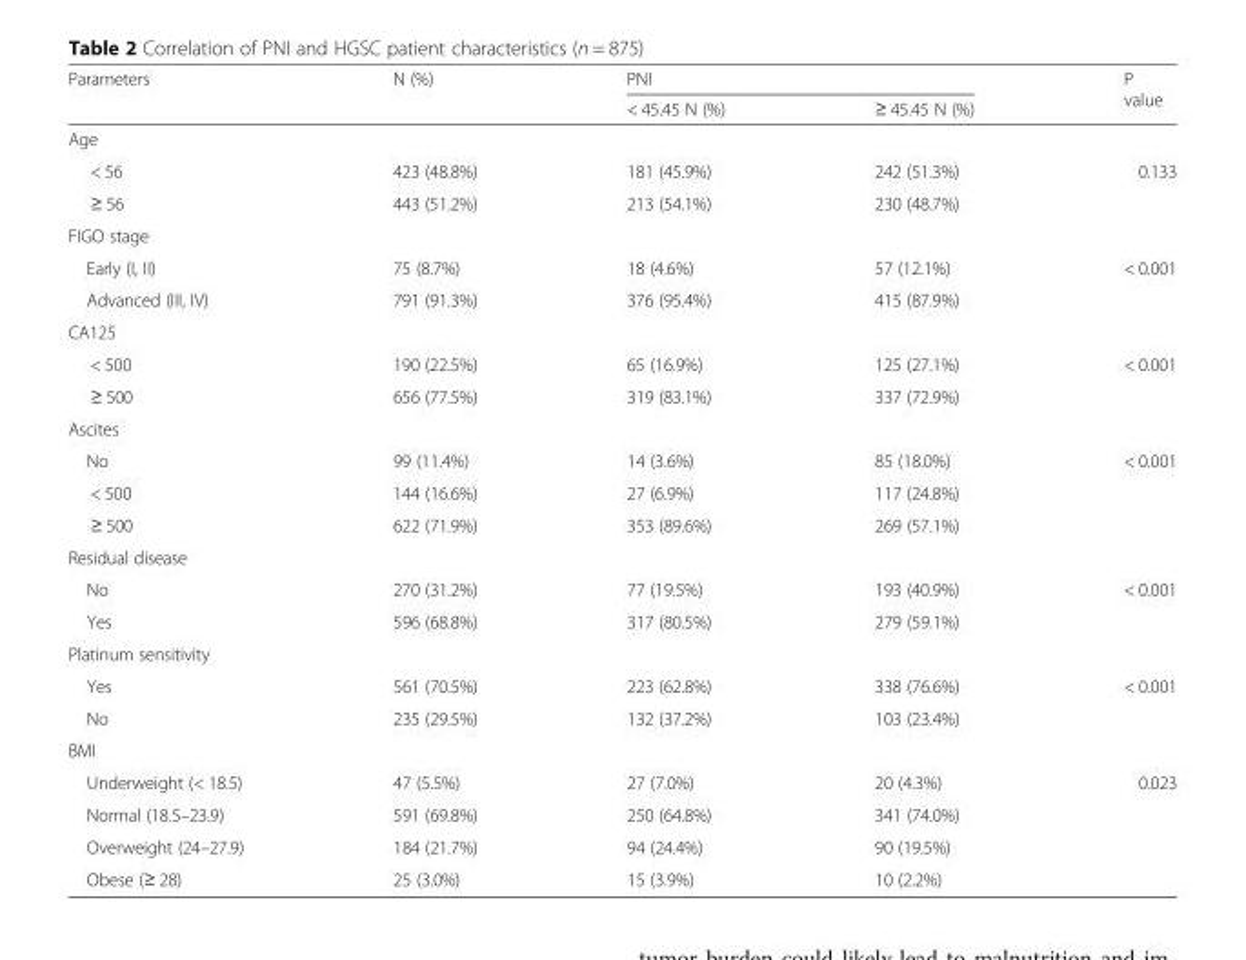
<table><thead><tr><td rowspan="2">Parameters</td><td rowspan="2">N (%)</td><td colspan="2">PNI</td><td rowspan="2">P value</td></tr><tr><td>&lt; 45.45 N (%)</td><td>≥ 45.45 N (%)</td></tr></thead><tbody><tr><td colspan="5">Age</td></tr><tr><td>&lt; 56</td><td>423 (48.8%)</td><td>181 (45.9%)</td><td>242 (51.3%)</td><td rowspan="2">0.133</td></tr><tr><td>≥ 56</td><td>443 (51.2%)</td><td>213 (54.1%)</td><td>230 (48.7%)</td></tr><tr><td colspan="5">FIGO stage</td></tr><tr><td>Early (I, II)</td><td>75 (8.7%)</td><td>18 (4.6%)</td><td>57 (12.1%)</td><td rowspan="2">&lt; 0.001</td></tr><tr><td>Advanced (III, IV)</td><td>791 (91.3%)</td><td>376 (95.4%)</td><td>415 (87.9%)</td></tr><tr><td colspan="5">CA125</td></tr><tr><td>&lt; 500</td><td>190 (22.5%)</td><td>65 (16.9%)</td><td>125 (27.1%)</td><td rowspan="2">&lt; 0.001</td></tr><tr><td>≥ 500</td><td>656 (77.5%)</td><td>319 (83.1%)</td><td>337 (72.9%)</td></tr><tr><td colspan="5">Ascites</td></tr><tr><td>No</td><td>99 (11.4%)</td><td>14 (3.6%)</td><td>85 (18.0%)</td><td rowspan="3">&lt; 0.001</td></tr><tr><td>&lt; 500</td><td>144 (16.6%)</td><td>27 (6.9%)</td><td>117 (24.8%)</td></tr><tr><td>≥ 500</td><td>622 (71.9%)</td><td>353 (89.6%)</td><td>269 (57.1%)</td></tr><tr><td colspan="5">Residual disease</td></tr><tr><td>No</td><td>270 (31.2%)</td><td>77 (19.5%)</td><td>193 (40.9%)</td><td rowspan="2">&lt; 0.001</td></tr><tr><td>Yes</td><td>596 (68.8%)</td><td>317 (80.5%)</td><td>279 (59.1%)</td></tr><tr><td colspan="5">Platinum sensitivity</td></tr><tr><td>Yes</td><td>561 (70.5%)</td><td>223 (62.8%)</td><td>338 (76.6%)</td><td rowspan="2">&lt; 0.001</td></tr><tr><td>No</td><td>235 (29.5%)</td><td>132 (37.2%)</td><td>103 (23.4%)</td></tr><tr><td colspan="5">BMI</td></tr><tr><td>Underweight (&lt; 18.5)</td><td>47 (5.5%)</td><td>27 (7.0%)</td><td>20 (4.3%)</td><td rowspan="4">0.023</td></tr><tr><td>Normal (18.5–23.9)</td><td>591 (69.8%)</td><td>250 (64.8%)</td><td>341 (74.0%)</td></tr><tr><td>Overweight (24–27.9)</td><td>184 (21.7%)</td><td>94 (24.4%)</td><td>90 (19.5%)</td></tr><tr><td>Obese (≥ 28)</td><td>25 (3.0%)</td><td>15 (3.9%)</td><td>10 (2.2%)</td></tr></tbody></table>